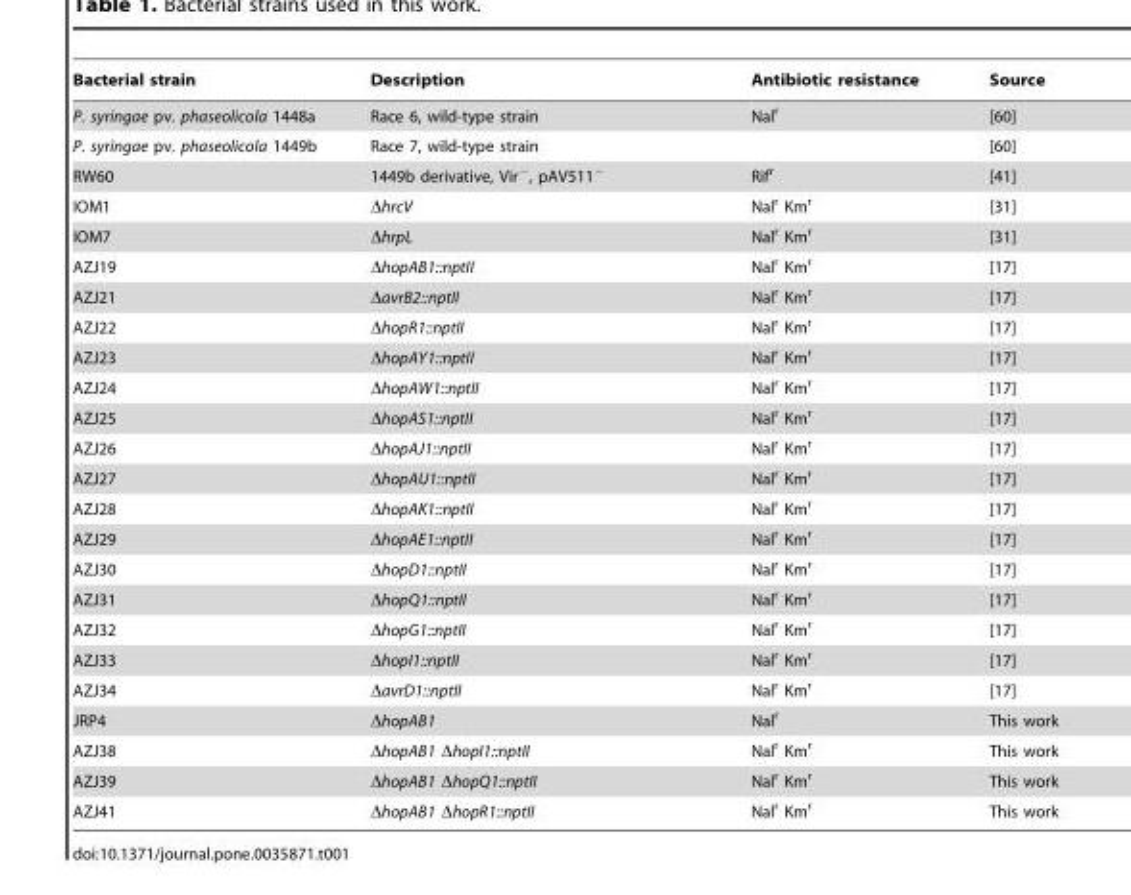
<table><thead><tr><td>Bacterial strain</td><td>Description</td><td>Antibiotic resistance</td><td>Source</td></tr></thead><tbody><tr><td>P. syringae pv. phaseolicola 1448a</td><td>Race 6, wild-type strain</td><td>Nal<sup>r</sup></td><td>[60]</td></tr><tr><td>P. syringae pv. phaseolicola 1449b</td><td>Race 7, wild-type strain</td><td></td><td>[60]</td></tr><tr><td>RW60</td><td>1449b derivative, Vir<sup>−</sup>, pAV511<sup>−</sup></td><td>Rif<sup>r</sup></td><td>[41]</td></tr><tr><td>IOM1</td><td>ΔhrcV</td><td>Nal<sup>r</sup> Km<sup>r</sup></td><td>[31]</td></tr><tr><td>IOM7</td><td>ΔhrpL</td><td>Nal<sup>r</sup> Km<sup>r</sup></td><td>[31]</td></tr><tr><td>AZJ19</td><td>ΔhopAB1::nptII</td><td>Nal<sup>r</sup> Km<sup>r</sup></td><td>[17]</td></tr><tr><td>AZJ21</td><td>ΔavrB2::nptII</td><td>Nal<sup>r</sup> Km<sup>r</sup></td><td>[17]</td></tr><tr><td>AZJ22</td><td>ΔhopR1::nptII</td><td>Nal<sup>r</sup> Km<sup>r</sup></td><td>[17]</td></tr><tr><td>AZJ23</td><td>ΔhopAY1::nptII</td><td>Nal<sup>r</sup> Km<sup>r</sup></td><td>[17]</td></tr><tr><td>AZJ24</td><td>ΔhopAW1::nptII</td><td>Nal<sup>r</sup> Km<sup>r</sup></td><td>[17]</td></tr><tr><td>AZJ25</td><td>ΔhopAS1::nptII</td><td>Nal<sup>r</sup> Km<sup>r</sup></td><td>[17]</td></tr><tr><td>AZJ26</td><td>ΔhopAJ1::nptII</td><td>Nal<sup>r</sup> Km<sup>r</sup></td><td>[17]</td></tr><tr><td>AZJ27</td><td>ΔhopAU1::nptII</td><td>Nal<sup>r</sup> Km<sup>r</sup></td><td>[17]</td></tr><tr><td>AZJ28</td><td>ΔhopAK1::nptII</td><td>Nal<sup>r</sup> Km<sup>r</sup></td><td>[17]</td></tr><tr><td>AZJ29</td><td>ΔhopAE1::nptII</td><td>Nal<sup>r</sup> Km<sup>r</sup></td><td>[17]</td></tr><tr><td>AZJ30</td><td>ΔhopD1::nptII</td><td>Nal<sup>r</sup> Km<sup>r</sup></td><td>[17]</td></tr><tr><td>AZJ31</td><td>ΔhopQ1::nptII</td><td>Nal<sup>r</sup> Km<sup>r</sup></td><td>[17]</td></tr><tr><td>AZJ32</td><td>ΔhopG1::nptII</td><td>Nal<sup>r</sup> Km<sup>r</sup></td><td>[17]</td></tr><tr><td>AZJ33</td><td>ΔhopI1::nptII</td><td>Nal<sup>r</sup> Km<sup>r</sup></td><td>[17]</td></tr><tr><td>AZJ34</td><td>ΔavrD1::nptII</td><td>Nal<sup>r</sup> Km<sup>r</sup></td><td>[17]</td></tr><tr><td>JRP4</td><td>ΔhopAB1</td><td>Nal<sup>r</sup></td><td>This work</td></tr><tr><td>AZJ38</td><td>ΔhopAB1 ΔhopI1::nptII</td><td>Nal<sup>r</sup> Km<sup>r</sup></td><td>This work</td></tr><tr><td>AZJ39</td><td>ΔhopAB1 ΔhopQ1::nptII</td><td>Nal<sup>r</sup> Km<sup>r</sup></td><td>This work</td></tr><tr><td>AZJ41</td><td>ΔhopAB1 ΔhopR1::nptII</td><td>Nal<sup>r</sup> Km<sup>r</sup></td><td>This work</td></tr></tbody></table>